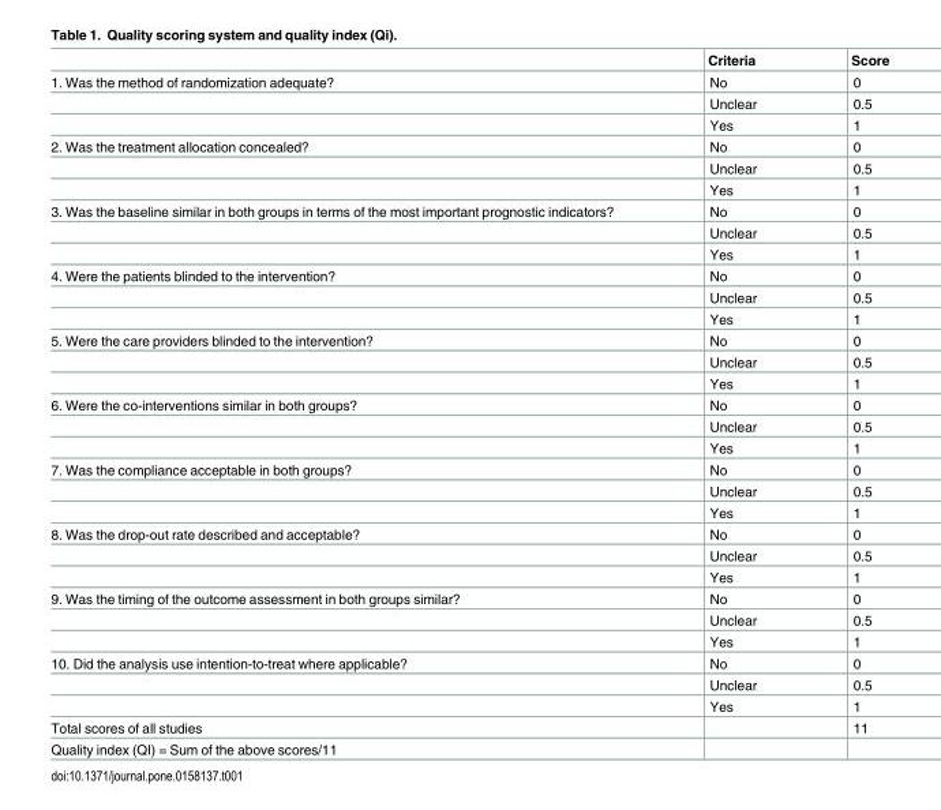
<table><thead><tr><td></td><td>Criteria</td><td>Score</td></tr></thead><tbody><tr><td rowspan="3">1. Was the method of randomization adequate?</td><td>No</td><td>0</td></tr><tr><td>Unclear</td><td>0.5</td></tr><tr><td>Yes</td><td>1</td></tr><tr><td rowspan="3">2. Was the treatment allocation concealed?</td><td>No</td><td>0</td></tr><tr><td>Unclear</td><td>0.5</td></tr><tr><td>Yes</td><td>1</td></tr><tr><td rowspan="3">3. Was the baseline similar in both groups in terms of the most important prognostic indicators?</td><td>No</td><td>0</td></tr><tr><td>Unclear</td><td>0.5</td></tr><tr><td>Yes</td><td>1</td></tr><tr><td rowspan="3">4. Were the patients blinded to the intervention?</td><td>No</td><td>0</td></tr><tr><td>Unclear</td><td>0.5</td></tr><tr><td>Yes</td><td>1</td></tr><tr><td rowspan="3">5. Were the care providers blinded to the intervention?</td><td>No</td><td>0</td></tr><tr><td>Unclear</td><td>0.5</td></tr><tr><td>Yes</td><td>1</td></tr><tr><td rowspan="3">6. Were the co-interventions similar in both groups?</td><td>No</td><td>0</td></tr><tr><td>Unclear</td><td>0.5</td></tr><tr><td>Yes</td><td>1</td></tr><tr><td rowspan="3">7. Was the compliance acceptable in both groups?</td><td>No</td><td>0</td></tr><tr><td>Unclear</td><td>0.5</td></tr><tr><td>Yes</td><td>1</td></tr><tr><td rowspan="3">8. Was the drop-out rate described and acceptable?</td><td>No</td><td>0</td></tr><tr><td>Unclear</td><td>0.5</td></tr><tr><td>Yes</td><td>1</td></tr><tr><td rowspan="3">9. Was the timing of the outcome assessment in both groups similar?</td><td>No</td><td>0</td></tr><tr><td>Unclear</td><td>0.5</td></tr><tr><td>Yes</td><td>1</td></tr><tr><td rowspan="3">10. Did the analysis use intention-to-treat where applicable?</td><td>No</td><td>0</td></tr><tr><td>Unclear</td><td>0.5</td></tr><tr><td>Yes</td><td>1</td></tr><tr><td>Total scores of all studies</td><td></td><td>11</td></tr><tr><td>Quality index (QI) = Sum of the above scores/11</td><td></td><td></td></tr></tbody></table>